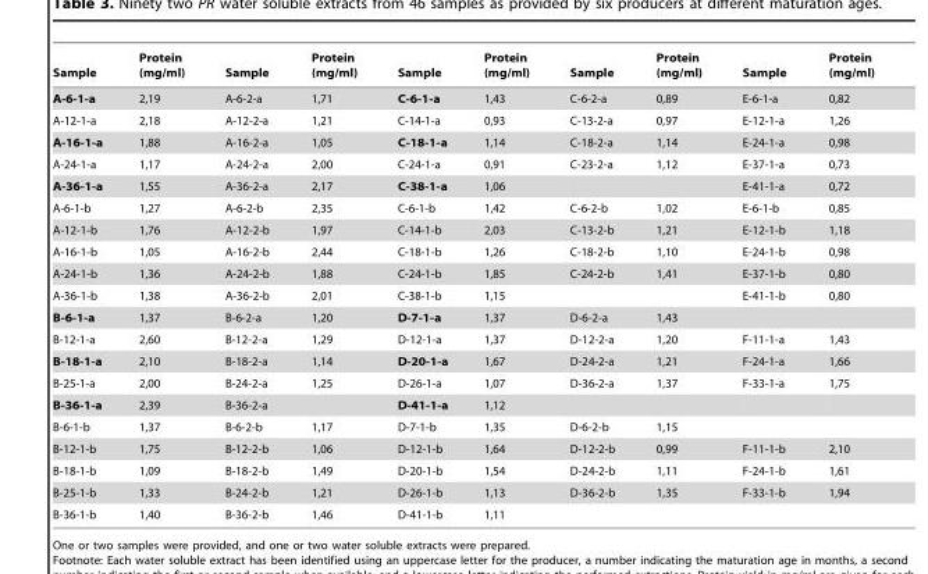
<table><thead><tr><td>Sample</td><td>Protein (mg/ml)</td><td>Sample</td><td>Protein (mg/ml)</td><td>Sample</td><td>Protein (mg/ml)</td><td>Sample</td><td>Protein (mg/ml)</td><td>Sample</td><td>Protein (mg/ml)</td></tr></thead><tbody><tr><td>A-6-1-a</td><td>2,19</td><td>A-6-2-a</td><td>1,71</td><td>C-6-1-a</td><td>1,43</td><td>C-6-2-a</td><td>0,89</td><td>E-6-1-a</td><td>0,82</td></tr><tr><td>A-12-1-a</td><td>2,18</td><td>A-12-2-a</td><td>1,21</td><td>C-14-1-a</td><td>0,93</td><td>C-13-2-a</td><td>0,97</td><td>E-12-1-a</td><td>1,26</td></tr><tr><td>A-16-1-a</td><td>1,88</td><td>A-16-2-a</td><td>1,05</td><td>C-18-1-a</td><td>1,14</td><td>C-18-2-a</td><td>1,14</td><td>E-24-1-a</td><td>0,98</td></tr><tr><td>A-24-1-a</td><td>1,17</td><td>A-24-2-a</td><td>2,00</td><td>C-24-1-a</td><td>0,91</td><td>C-23-2-a</td><td>1,12</td><td>E-37-1-a</td><td>0,73</td></tr><tr><td>A-36-1-a</td><td>1,55</td><td>A-36-2-a</td><td>2,17</td><td>C-38-1-a</td><td>1,06</td><td></td><td></td><td>E-41-1-a</td><td>0,72</td></tr><tr><td>A-6-1-b</td><td>1,27</td><td>A-6-2-b</td><td>2,35</td><td>C-6-1-b</td><td>1,42</td><td>C-6-2-b</td><td>1,02</td><td>E-6-1-b</td><td>0,85</td></tr><tr><td>A-12-1-b</td><td>1,76</td><td>A-12-2-b</td><td>1,97</td><td>C-14-1-b</td><td>2,03</td><td>C-13-2-b</td><td>1,21</td><td>E-12-1-b</td><td>1,18</td></tr><tr><td>A-16-1-b</td><td>1,05</td><td>A-16-2-b</td><td>2,44</td><td>C-18-1-b</td><td>1,26</td><td>C-18-2-b</td><td>1,10</td><td>E-24-1-b</td><td>0,98</td></tr><tr><td>A-24-1-b</td><td>1,36</td><td>A-24-2-b</td><td>1,88</td><td>C-24-1-b</td><td>1,85</td><td>C-24-2-b</td><td>1,41</td><td>E-37-1-b</td><td>0,80</td></tr><tr><td>A-36-1-b</td><td>1,38</td><td>A-36-2-b</td><td>2,01</td><td>C-38-1-b</td><td>1,15</td><td></td><td></td><td>E-41-1-b</td><td>0,80</td></tr><tr><td>B-6-1-a</td><td>1,37</td><td>B-6-2-a</td><td>1,20</td><td>D-7-1-a</td><td>1,37</td><td>D-6-2-a</td><td>1,43</td><td></td><td></td></tr><tr><td>B-12-1-a</td><td>2,60</td><td>B-12-2-a</td><td>1,29</td><td>D-12-1-a</td><td>1,37</td><td>D-12-2-a</td><td>1,20</td><td>F-11-1-a</td><td>1,43</td></tr><tr><td>B-18-1-a</td><td>2,10</td><td>B-18-2-a</td><td>1,14</td><td>D-20-1-a</td><td>1,67</td><td>D-24-2-a</td><td>1,21</td><td>F-24-1-a</td><td>1,66</td></tr><tr><td>B-25-1-a</td><td>2,00</td><td>B-24-2-a</td><td>1,25</td><td>D-26-1-a</td><td>1,07</td><td>D-36-2-a</td><td>1,37</td><td>F-33-1-a</td><td>1,75</td></tr><tr><td>B-36-1-a</td><td>2,39</td><td>B-36-2-a</td><td></td><td>D-41-1-a</td><td>1,12</td><td></td><td></td><td></td><td></td></tr><tr><td>B-6-1-b</td><td>1,37</td><td>B-6-2-b</td><td>1,17</td><td>D-7-1-b</td><td>1,35</td><td>D-6-2-b</td><td>1,15</td><td></td><td></td></tr><tr><td>B-12-1-b</td><td>1,75</td><td>B-12-2-b</td><td>1,06</td><td>D-12-1-b</td><td>1,64</td><td>D-12-2-b</td><td>0,99</td><td>F-11-1-b</td><td>2,10</td></tr><tr><td>B-18-1-b</td><td>1,09</td><td>B-18-2-b</td><td>1,49</td><td>D-20-1-b</td><td>1,54</td><td>D-24-2-b</td><td>1,11</td><td>F-24-1-b</td><td>1,61</td></tr><tr><td>B-25-1-b</td><td>1,33</td><td>B-24-2-b</td><td>1,21</td><td>D-26-1-b</td><td>1,13</td><td>D-36-2-b</td><td>1,35</td><td>F-33-1-b</td><td>1,94</td></tr><tr><td>B-36-1-b</td><td>1,40</td><td>B-36-2-b</td><td>1,46</td><td>D-41-1-b</td><td>1,11</td><td></td><td></td><td></td><td></td></tr></tbody></table>